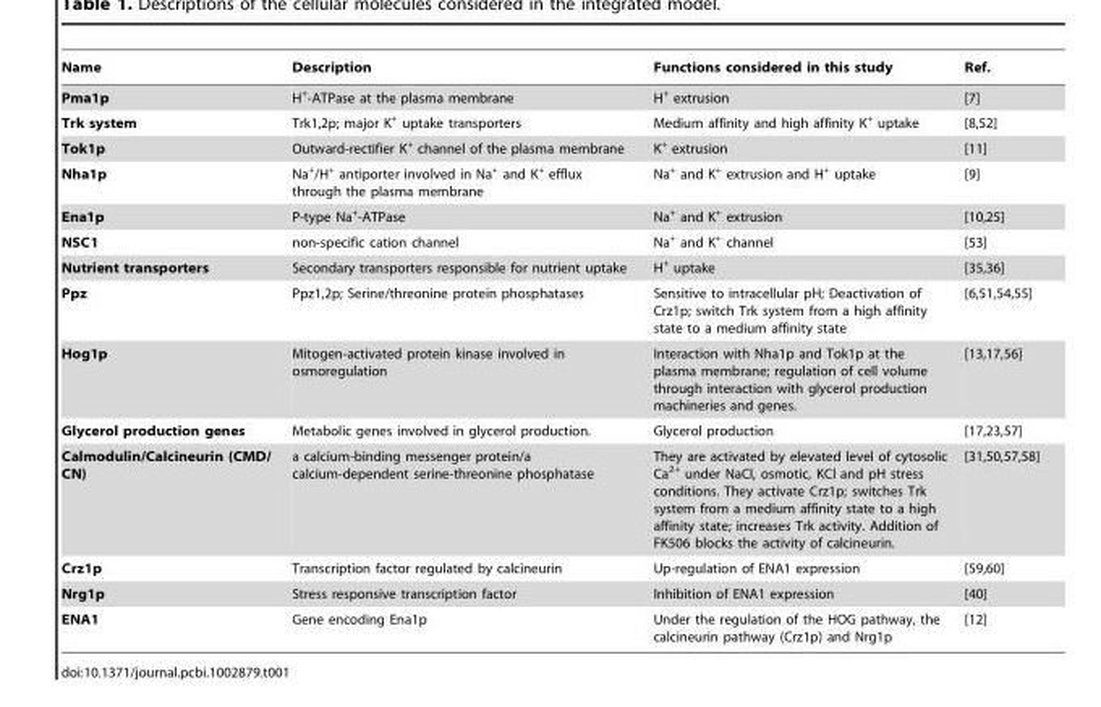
<table><thead><tr><td>Name</td><td>Description</td><td>Functions considered in this study</td><td>Ref.</td></tr></thead><tbody><tr><td>Pma1p</td><td>H<sup>+</sup>-ATPase at the plasma membrane</td><td>H<sup>+</sup> extrusion</td><td>[7]</td></tr><tr><td>Trk system</td><td>Trk1,2p; major K<sup>+</sup> uptake transporters</td><td>Medium affinity and high affinity K<sup>+</sup> uptake</td><td>[8,52]</td></tr><tr><td>Tok1p</td><td>Outward-rectifier K<sup>+</sup> channel of the plasma membrane</td><td>K<sup>+</sup> extrusion</td><td>[11]</td></tr><tr><td>Nha1p</td><td>Na<sup>+</sup>/H<sup>+</sup> antiporter involved in Na<sup>+</sup> and K<sup>+</sup> efflux through the plasma membrane</td><td>Na<sup>+</sup> and K<sup>+</sup> extrusion and H<sup>+</sup> uptake</td><td>[9]</td></tr><tr><td>Ena1p</td><td>P-type Na<sup>+</sup>-ATPase</td><td>Na<sup>+</sup> and K<sup>+</sup> extrusion</td><td>[10,25]</td></tr><tr><td>NSC1</td><td>non-specific cation channel</td><td>Na<sup>+</sup> and K<sup>+</sup> channel</td><td>[53]</td></tr><tr><td>Nutrient transporters</td><td>Secondary transporters responsible for nutrient uptake</td><td>H<sup>+</sup> uptake</td><td>[35,36]</td></tr><tr><td>Ppz</td><td>Ppz1,2p; Serine/threonine protein phosphatases</td><td>Sensitive to intracellular pH; Deactivation of Crz1p; switch Trk system from a high affinity state to a medium affinity state</td><td>[6,51,54,55]</td></tr><tr><td>Hog1p</td><td>Mitogen-activated protein kinase involved in osmoregulation</td><td>Interaction with Nha1p and Tok1p at the plasma membrane; regulation of cell volume through interaction with glycerol production machineries and genes.</td><td>[13,17,56]</td></tr><tr><td>Glycerol production genes</td><td>Metabolic genes involved in glycerol production.</td><td>Glycerol production</td><td>[17,23,57]</td></tr><tr><td>Calmodulin/Calcineurin (CMD/ CN)</td><td>a calcium-binding messenger protein/a calcium-dependent serine-threonine phosphatase</td><td>They are activated by elevated level of cytosolic Ca<sup>2+</sup> under NaCl, osmotic, KCl and pH stress conditions. They activate Crz1p; switches Trk system from a medium affinity state to a high affinity state; increases Trk activity. Addition of FK506 blocks the activity of calcineurin.</td><td>[31,50,57,58]</td></tr><tr><td>Crz1p</td><td>Transcription factor regulated by calcineurin</td><td>Up-regulation of ENA1 expression</td><td>[59,60]</td></tr><tr><td>Nrg1p</td><td>Stress responsive transcription factor</td><td>Inhibition of ENA1 expression</td><td>[40]</td></tr><tr><td>ENA1</td><td>Gene encoding Ena1p</td><td>Under the regulation of the HOG pathway, the calcineurin pathway (Crz1p) and Nrg1p</td><td>[12]</td></tr></tbody></table>